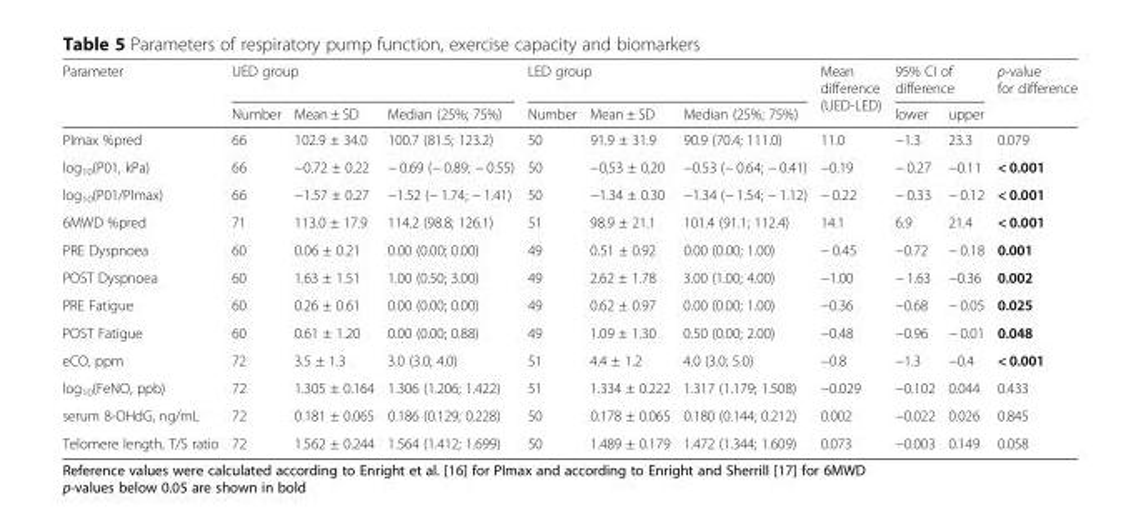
<table><thead><tr><td rowspan="2">Parameter</td><td colspan="3">UED group</td><td colspan="3">LED group</td><td rowspan="2">Mean difference (UED-LED)</td><td colspan="2">95% CI of difference</td><td rowspan="2">p-value for difference</td></tr><tr><td>Number</td><td>Mean ± SD</td><td>Median (25%; 75%)</td><td>Number</td><td>Mean ± SD</td><td>Median (25%; 75%)</td><td>lower</td><td>upper</td></tr></thead><tbody><tr><td>PImax %pred</td><td>66</td><td>102.9 ± 34.0</td><td>100.7 (81.5; 123.2)</td><td>50</td><td>91.9 ± 31.9</td><td>90.9 (70.4; 111.0)</td><td>11.0</td><td>−1.3</td><td>23.3</td><td>0.079</td></tr><tr><td>log<sub>10</sub>(P01, kPa)</td><td>66</td><td>−0.72 ± 0.22</td><td>− 0.69 (− 0.89; − 0.55)</td><td>50</td><td>−0,53 ± 0,20</td><td>−0.53 (− 0.64; − 0.41)</td><td>−0.19</td><td>− 0.27</td><td>−0.11</td><td>&lt; 0.001</td></tr><tr><td>log<sub>10</sub>(P01/PImax)</td><td>66</td><td>−1.57 ± 0.27</td><td>−1.52 (− 1.74; − 1.41)</td><td>50</td><td>−1.34 ± 0.30</td><td>−1.34 (− 1.54; − 1.12)</td><td>− 0.22</td><td>− 0.33</td><td>− 0.12</td><td>&lt; 0.001</td></tr><tr><td>6MWD %pred</td><td>71</td><td>113.0 ± 17.9</td><td>114.2 (98.8; 126.1)</td><td>51</td><td>98.9 ± 21.1</td><td>101.4 (91.1; 112.4)</td><td>14.1</td><td>6.9</td><td>21.4</td><td>&lt; 0.001</td></tr><tr><td>PRE Dyspnoea</td><td>60</td><td>0.06 ± 0.21</td><td>0.00 (0.00; 0.00)</td><td>49</td><td>0.51 ± 0.92</td><td>0.00 (0.00; 1.00)</td><td>− 0.45</td><td>−0.72</td><td>− 0.18</td><td>0.001</td></tr><tr><td>POST Dyspnoea</td><td>60</td><td>1.63 ± 1.51</td><td>1.00 (0.50; 3.00)</td><td>49</td><td>2.62 ± 1.78</td><td>3.00 (1.00; 4.00)</td><td>−1.00</td><td>− 1.63</td><td>−0.36</td><td>0.002</td></tr><tr><td>PRE Fatigue</td><td>60</td><td>0.26 ± 0.61</td><td>0.00 (0.00; 0.00)</td><td>49</td><td>0.62 ± 0.97</td><td>0.00 (0.00; 1.00)</td><td>−0.36</td><td>−0.68</td><td>− 0.05</td><td>0.025</td></tr><tr><td>POST Fatigue</td><td>60</td><td>0.61 ± 1.20</td><td>0.00 (0.00; 0.88)</td><td>49</td><td>1.09 ± 1.30</td><td>0.50 (0.00; 2.00)</td><td>−0.48</td><td>−0.96</td><td>− 0.01</td><td>0.048</td></tr><tr><td>eCO, ppm</td><td>72</td><td>3.5 ± 1.3</td><td>3.0 (3.0; 4.0)</td><td>51</td><td>4.4 ± 1.2</td><td>4.0 (3.0; 5.0)</td><td>−0.8</td><td>−1.3</td><td>−0.4</td><td>&lt; 0.001</td></tr><tr><td>log<sub>10</sub>(FeNO, ppb)</td><td>72</td><td>1.305 ± 0.164</td><td>1.306 (1.206; 1.422)</td><td>51</td><td>1.334 ± 0.222</td><td>1.317 (1.179; 1.508)</td><td>−0.029</td><td>−0.102</td><td>0.044</td><td>0.433</td></tr><tr><td>serum 8-OHdG, ng/mL</td><td>72</td><td>0.181 ± 0.065</td><td>0.186 (0.129; 0.228)</td><td>50</td><td>0.178 ± 0.065</td><td>0.180 (0.144; 0.212)</td><td>0.002</td><td>−0.022</td><td>0.026</td><td>0.845</td></tr><tr><td>Telomere length, T/S ratio</td><td>72</td><td>1.562 ± 0.244</td><td>1.564 (1.412; 1.699)</td><td>50</td><td>1.489 ± 0.179</td><td>1.472 (1.344; 1.609)</td><td>0.073</td><td>−0.003</td><td>0.149</td><td>0.058</td></tr></tbody></table>